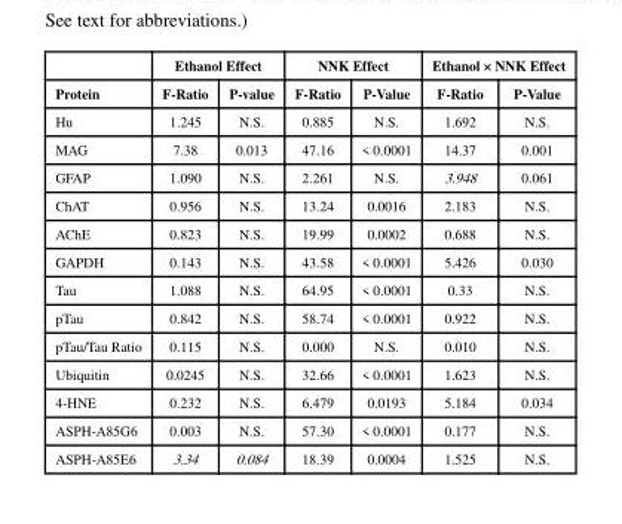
<table><thead><tr><td rowspan="2">Protein</td><td colspan="2">Ethanol Effect</td><td colspan="2">NNK Effect</td><td colspan="2">Ethanol × NNK Effect</td></tr><tr><td>F-Ratio</td><td>P-value</td><td>F-Ratio</td><td>P-Value</td><td>F-Ratio</td><td>P-Value</td></tr></thead><tbody><tr><td>Hu</td><td>1.245</td><td>N.S.</td><td>0.885</td><td>N.S.</td><td>1.692</td><td>N.S.</td></tr><tr><td>MAG</td><td>7.38</td><td>0.013</td><td>47.16</td><td>&lt; 0.0001</td><td>14.37</td><td>0.001</td></tr><tr><td>GFAP</td><td>1.090</td><td>N.S.</td><td>2.261</td><td>N.S.</td><td>3.948</td><td>0.061</td></tr><tr><td>ChAT</td><td>0.956</td><td>N.S.</td><td>13.24</td><td>0.0016</td><td>2.183</td><td>N.S.</td></tr><tr><td>AChE</td><td>0.823</td><td>N.S.</td><td>19.99</td><td>0.0002</td><td>0.688</td><td>N.S.</td></tr><tr><td>GAPDH</td><td>0.143</td><td>N.S.</td><td>43.58</td><td>&lt; 0.0001</td><td>5.426</td><td>0.030</td></tr><tr><td>Tau</td><td>1.088</td><td>N.S.</td><td>64.95</td><td>&lt; 0.0001</td><td>0.33</td><td>N.S.</td></tr><tr><td>pTau</td><td>0.842</td><td>N.S.</td><td>58.74</td><td>&lt; 0.0001</td><td>0.922</td><td>N.S.</td></tr><tr><td>pTau/Tau Ratio</td><td>0.115</td><td>N.S.</td><td>0.000</td><td>N.S.</td><td>0.010</td><td>N.S.</td></tr><tr><td>Ubiquitin</td><td>0.0245</td><td>N.S.</td><td>32.66</td><td>&lt; 0.0001</td><td>1.623</td><td>N.S.</td></tr><tr><td>4-HNE</td><td>0.232</td><td>N.S.</td><td>6.479</td><td>0.0193</td><td>5.184</td><td>0.034</td></tr><tr><td>ASPH-A85G6</td><td>0.003</td><td>N.S.</td><td>57.30</td><td>&lt; 0.0001</td><td>0.177</td><td>N.S.</td></tr><tr><td>ASPH-A85E6</td><td>3.34</td><td>0.084</td><td>18.39</td><td>0.0004</td><td>1.525</td><td>N.S.</td></tr></tbody></table>